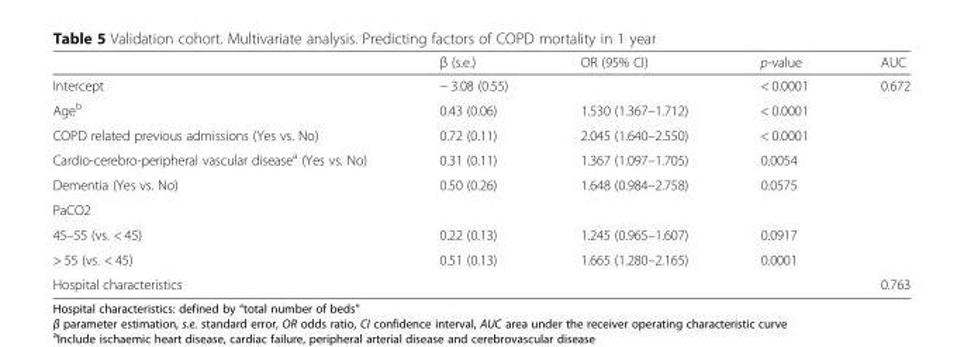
<table><thead><tr><td></td><td>β (s.e.)</td><td>OR (95% CI)</td><td>p-value</td><td>AUC</td></tr></thead><tbody><tr><td>Intercept</td><td>− 3.08 (0.55)</td><td></td><td>&lt; 0.0001</td><td rowspan="8">0.672</td></tr><tr><td>Age<sup>b</sup></td><td>0.43 (0.06)</td><td>1.530 (1.367–1.712)</td><td>&lt; 0.0001</td></tr><tr><td>COPD related previous admissions (Yes vs. No)</td><td>0.72 (0.11)</td><td>2.045 (1.640–2.550)</td><td>&lt; 0.0001</td></tr><tr><td>Cardio-cerebro-peripheral vascular disease<sup>a</sup> (Yes vs. No)</td><td>0.31 (0.11)</td><td>1.367 (1.097–1.705)</td><td>0.0054</td></tr><tr><td>Dementia (Yes vs. No)</td><td>0.50 (0.26)</td><td>1.648 (0.984–2.758)</td><td>0.0575</td></tr><tr><td colspan="4">PaCO2</td></tr><tr><td>45–55 (vs. &lt; 45)</td><td>0.22 (0.13)</td><td>1.245 (0.965–1.607)</td><td>0.0917</td></tr><tr><td>&gt; 55 (vs. &lt; 45)</td><td>0.51 (0.13)</td><td>1.665 (1.280–2.165)</td><td>0.0001</td></tr><tr><td>Hospital characteristics</td><td></td><td></td><td></td><td>0.763</td></tr></tbody></table>